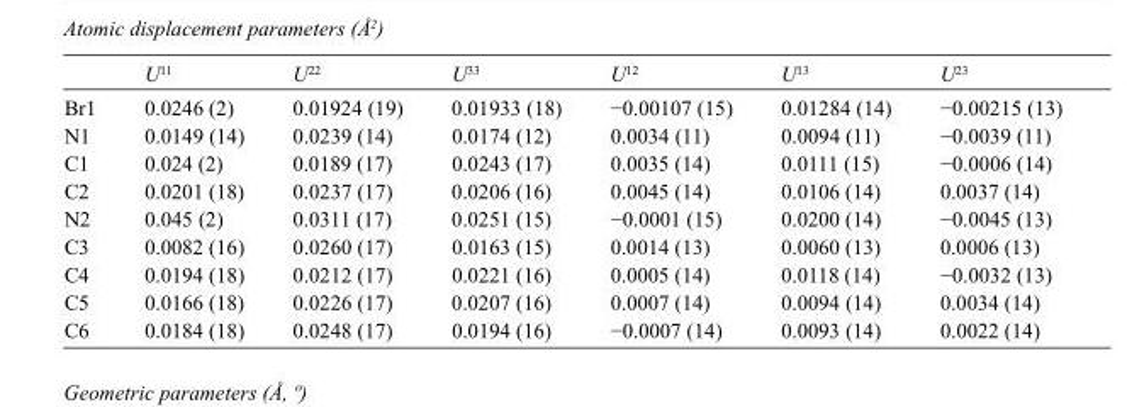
<table><thead><tr><td></td><td>U<sup>11</sup></td><td>U<sup>22</sup></td><td>U<sup>33</sup></td><td>U<sup>12</sup></td><td>U<sup>13</sup></td><td>U<sup>23</sup></td></tr></thead><tbody><tr><td>Br1</td><td>0.0246 (2)</td><td>0.01924 (19)</td><td>0.01933 (18)</td><td>−0.00107 (15)</td><td>0.01284 (14)</td><td>−0.00215 (13)</td></tr><tr><td>N1</td><td>0.0149 (14)</td><td>0.0239 (14)</td><td>0.0174 (12)</td><td>0.0034 (11)</td><td>0.0094 (11)</td><td>−0.0039 (11)</td></tr><tr><td>C1</td><td>0.024 (2)</td><td>0.0189 (17)</td><td>0.0243 (17)</td><td>0.0035 (14)</td><td>0.0111 (15)</td><td>−0.0006 (14)</td></tr><tr><td>C2</td><td>0.0201 (18)</td><td>0.0237 (17)</td><td>0.0206 (16)</td><td>0.0045 (14)</td><td>0.0106 (14)</td><td>0.0037 (14)</td></tr><tr><td>N2</td><td>0.045 (2)</td><td>0.0311 (17)</td><td>0.0251 (15)</td><td>−0.0001 (15)</td><td>0.0200 (14)</td><td>−0.0045 (13)</td></tr><tr><td>C3</td><td>0.0082 (16)</td><td>0.0260 (17)</td><td>0.0163 (15)</td><td>0.0014 (13)</td><td>0.0060 (13)</td><td>0.0006 (13)</td></tr><tr><td>C4</td><td>0.0194 (18)</td><td>0.0212 (17)</td><td>0.0221 (16)</td><td>0.0005 (14)</td><td>0.0118 (14)</td><td>−0.0032 (13)</td></tr><tr><td>C5</td><td>0.0166 (18)</td><td>0.0226 (17)</td><td>0.0207 (16)</td><td>0.0007 (14)</td><td>0.0094 (14)</td><td>0.0034 (14)</td></tr><tr><td>C6</td><td>0.0184 (18)</td><td>0.0248 (17)</td><td>0.0194 (16)</td><td>−0.0007 (14)</td><td>0.0093 (14)</td><td>0.0022 (14)</td></tr></tbody></table>